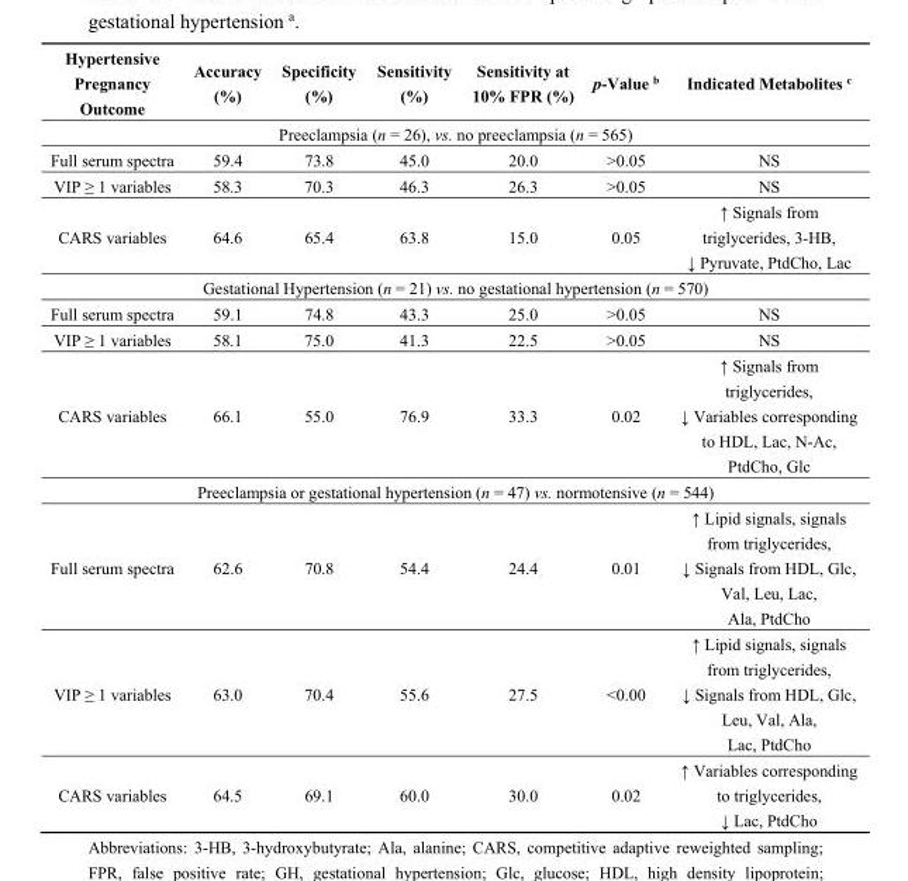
<table><thead><tr><td>Hypertensive Pregnancy Outcome</td><td>Accuracy (%)</td><td>Specificity (%)</td><td>Sensitivity (%)</td><td>Sensitivity at 10% FPR (%)</td><td>p-Value <sup>b</sup></td><td>Indicated Metabolites <sup>c</sup></td></tr></thead><tbody><tr><td colspan="7">Preeclampsia (n = 26), vs. no preeclampsia (n = 565)</td></tr><tr><td>Full serum spectra</td><td>59.4</td><td>73.8</td><td>45.0</td><td>20.0</td><td>&gt;0.05</td><td>NS</td></tr><tr><td>VIP ≥ 1 variables</td><td>58.3</td><td>70.3</td><td>46.3</td><td>26.3</td><td>&gt;0.05</td><td>NS</td></tr><tr><td>CARS variables</td><td>64.6</td><td>65.4</td><td>63.8</td><td>15.0</td><td>0.05</td><td>↑ Signals from triglycerides, 3-HB, ↓ Pyruvate, PtdCho, Lac</td></tr><tr><td colspan="7">Gestational Hypertension (n = 21) vs. no gestational hypertension (n = 570)</td></tr><tr><td>Full serum spectra</td><td>59.1</td><td>74.8</td><td>43.3</td><td>25.0</td><td>&gt;0.05</td><td>NS</td></tr><tr><td>VIP ≥ 1 variables</td><td>58.1</td><td>75.0</td><td>41.3</td><td>22.5</td><td>&gt;0.05</td><td>NS</td></tr><tr><td>CARS variables</td><td>66.1</td><td>55.0</td><td>76.9</td><td>33.3</td><td>0.02</td><td>↑ Signals from triglycerides, ↓ Variables corresponding to HDL, Lac, N-Ac, PtdCho, Glc</td></tr><tr><td colspan="7">Preeclampsia or gestational hypertension (n = 47) vs. normotensive (n = 544)</td></tr><tr><td>Full serum spectra</td><td>62.6</td><td>70.8</td><td>54.4</td><td>24.4</td><td>0.01</td><td>↑ Lipid signals, signals from triglycerides, ↓ Signals from HDL, Glc, Val, Leu, Lac, Ala, PtdCho</td></tr><tr><td>VIP ≥ 1 variables</td><td>63.0</td><td>70.4</td><td>55.6</td><td>27.5</td><td>&lt;0.00</td><td>↑ Lipid signals, signals from triglycerides, ↓ Signals from HDL, Glc, Leu, Val, Ala, Lac, PtdCho</td></tr><tr><td>CARS variables</td><td>64.5</td><td>69.1</td><td>60.0</td><td>30.0</td><td>0.02</td><td>↑ Variables corresponding to triglycerides, ↓ Lac, PtdCho</td></tr></tbody></table>